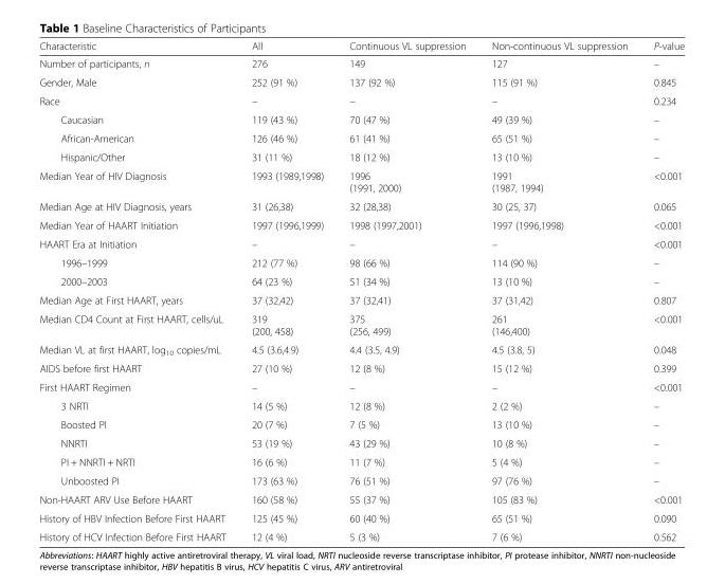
<table><thead><tr><td>Characteristic</td><td>All</td><td>Continuous VL suppression</td><td>Non-continuous VL suppression</td><td>P-value</td></tr></thead><tbody><tr><td>Number of participants, n</td><td>276</td><td>149</td><td>127</td><td>–</td></tr><tr><td>Gender, Male</td><td>252 (91 %)</td><td>137 (92 %)</td><td>115 (91 %)</td><td>0.845</td></tr><tr><td>Race</td><td>–</td><td>–</td><td>–</td><td>0.234</td></tr><tr><td>Caucasian</td><td>119 (43 %)</td><td>70 (47 %)</td><td>49 (39 %)</td><td>–</td></tr><tr><td>African-American</td><td>126 (46 %)</td><td>61 (41 %)</td><td>65 (51 %)</td><td>–</td></tr><tr><td>Hispanic/Other</td><td>31 (11 %)</td><td>18 (12 %)</td><td>13 (10 %)</td><td>–</td></tr><tr><td>Median Year of HIV Diagnosis</td><td>1993 (1989,1998)</td><td>1996 (1991, 2000)</td><td>1991 (1987, 1994)</td><td>&lt;0.001</td></tr><tr><td>Median Age at HIV Diagnosis, years</td><td>31 (26,38)</td><td>32 (28,38)</td><td>30 (25, 37)</td><td>0.065</td></tr><tr><td>Median Year of HAART Initiation</td><td>1997 (1996,1999)</td><td>1998 (1997,2001)</td><td>1997 (1996,1998)</td><td>&lt;0.001</td></tr><tr><td>HAART Era at Initiation</td><td>–</td><td>–</td><td>–</td><td>&lt;0.001</td></tr><tr><td>1996–1999</td><td>212 (77 %)</td><td>98 (66 %)</td><td>114 (90 %)</td><td>–</td></tr><tr><td>2000–2003</td><td>64 (23 %)</td><td>51 (34 %)</td><td>13 (10 %)</td><td>–</td></tr><tr><td>Median Age at First HAART, years</td><td>37 (32,42)</td><td>37 (32,41)</td><td>37 (31,42)</td><td>0.807</td></tr><tr><td>Median CD4 Count at First HAART, cells/uL</td><td>319 (200, 458)</td><td>375 (256, 499)</td><td>261 (146,400)</td><td>&lt;0.001</td></tr><tr><td>Median VL at first HAART, log<sub>10</sub> copies/mL</td><td>4.5 (3.6,4.9)</td><td>4.4 (3.5, 4.9)</td><td>4.5 (3.8, 5)</td><td>0.048</td></tr><tr><td>AIDS before first HAART</td><td>27 (10 %)</td><td>12 (8 %)</td><td>15 (12 %)</td><td>0.399</td></tr><tr><td>First HAART Regimen</td><td>–</td><td>–</td><td>–</td><td>&lt;0.001</td></tr><tr><td>3 NRTI</td><td>14 (5 %)</td><td>12 (8 %)</td><td>2 (2 %)</td><td>–</td></tr><tr><td>Boosted PI</td><td>20 (7 %)</td><td>7 (5 %)</td><td>13 (10 %)</td><td>–</td></tr><tr><td>NNRTI</td><td>53 (19 %)</td><td>43 (29 %)</td><td>10 (8 %)</td><td>–</td></tr><tr><td>PI + NNRTI + NRTI</td><td>16 (6 %)</td><td>11 (7 %)</td><td>5 (4 %)</td><td>–</td></tr><tr><td>Unboosted PI</td><td>173 (63 %)</td><td>76 (51 %)</td><td>97 (76 %)</td><td>–</td></tr><tr><td>Non-HAART ARV Use Before HAART</td><td>160 (58 %)</td><td>55 (37 %)</td><td>105 (83 %)</td><td>&lt;0.001</td></tr><tr><td>History of HBV Infection Before First HAART</td><td>125 (45 %)</td><td>60 (40 %)</td><td>65 (51 %)</td><td>0.090</td></tr><tr><td>History of HCV Infection Before First HAART</td><td>12 (4 %)</td><td>5 (3 %)</td><td>7 (6 %)</td><td>0.562</td></tr></tbody></table>